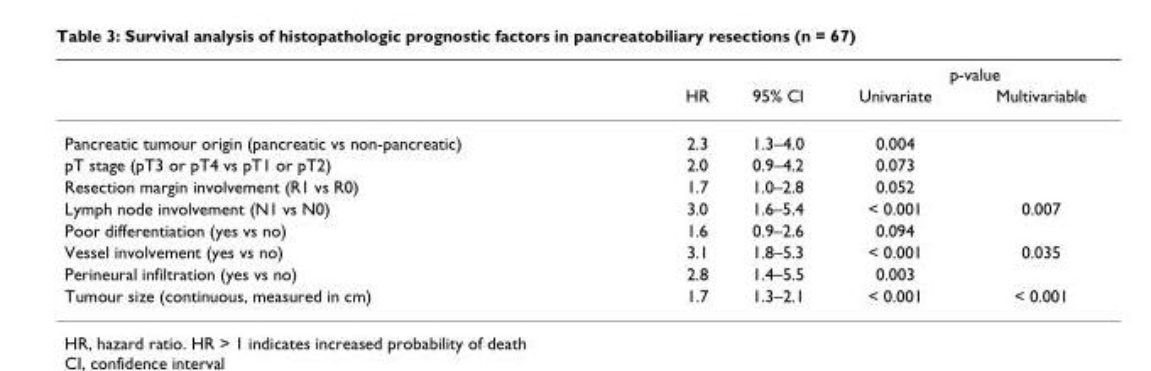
<table><thead><tr><td rowspan="2"></td><td rowspan="2">HR</td><td rowspan="2">95% CI</td><td colspan="2">p-value</td></tr><tr><td>Univariate</td><td>Multivariable</td></tr></thead><tbody><tr><td>Pancreatic tumour origin (pancreatic vs non-pancreatic)</td><td>2.3</td><td>1.3–4.0</td><td>0.004</td><td></td></tr><tr><td>pT stage (pT3 or pT4 vs pT1 or pT2)</td><td>2.0</td><td>0.9–4.2</td><td>0.073</td><td></td></tr><tr><td>Resection margin involvement (R1 vs R0)</td><td>1.7</td><td>1.0–2.8</td><td>0.052</td><td></td></tr><tr><td>Lymph node involvement (N1 vs N0)</td><td>3.0</td><td>1.6–5.4</td><td>&lt; 0.001</td><td>0.007</td></tr><tr><td>Poor differentiation (yes vs no)</td><td>1.6</td><td>0.9–2.6</td><td>0.094</td><td></td></tr><tr><td>Vessel involvement (yes vs no)</td><td>3.1</td><td>1.8–5.3</td><td>&lt; 0.001</td><td>0.035</td></tr><tr><td>Perineural infiltration (yes vs no)</td><td>2.8</td><td>1.4–5.5</td><td>0.003</td><td></td></tr><tr><td>Tumour size (continuous, measured in cm)</td><td>1.7</td><td>1.3–2.1</td><td>&lt; 0.001</td><td>&lt; 0.001</td></tr></tbody></table>